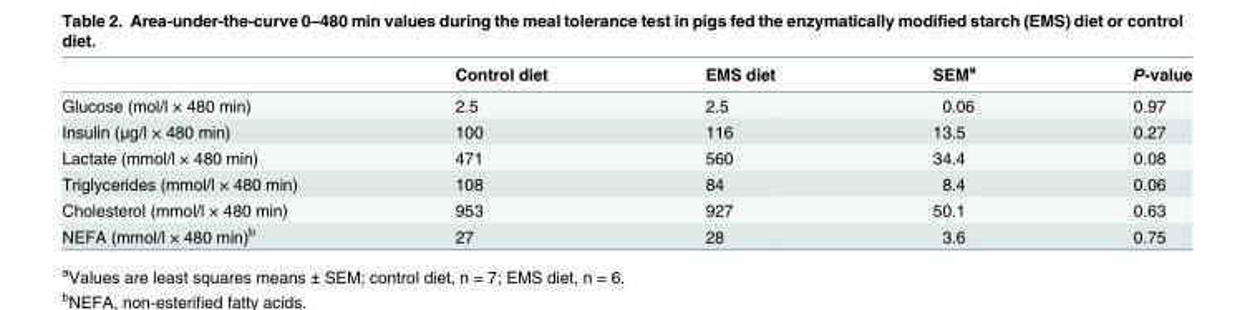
<table><thead><tr><td></td><td>Control diet</td><td>EMS diet</td><td>SEM<sup>a</sup></td><td>P-value</td></tr></thead><tbody><tr><td>Glucose (mol/l × 480 min)</td><td>2.5</td><td>2.5</td><td>0.06</td><td>0.97</td></tr><tr><td>Insulin (μg/l × 480 min)</td><td>100</td><td>116</td><td>13.5</td><td>0.27</td></tr><tr><td>Lactate (mmol/l × 480 min)</td><td>471</td><td>560</td><td>34.4</td><td>0.08</td></tr><tr><td>Triglycerides (mmol/l × 480 min)</td><td>108</td><td>84</td><td>8.4</td><td>0.06</td></tr><tr><td>Cholesterol (mmol/l × 480 min)</td><td>953</td><td>927</td><td>50.1</td><td>0.63</td></tr><tr><td>NEFA (mmol/l × 480 min)<sup>b</sup></td><td>27</td><td>28</td><td>3.6</td><td>0.75</td></tr></tbody></table>